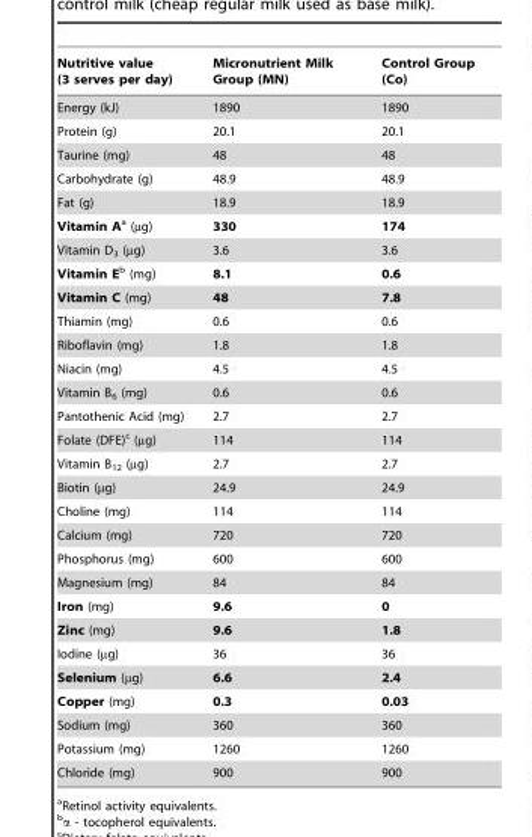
<table><thead><tr><td>Nutritive value (3 serves per day)</td><td>Micronutrient Milk Group (MN)</td><td>Control Group (Co)</td></tr></thead><tbody><tr><td>Energy (kJ)</td><td>1890</td><td>1890</td></tr><tr><td>Protein (g)</td><td>20.1</td><td>20.1</td></tr><tr><td>Taurine (mg)</td><td>48</td><td>48</td></tr><tr><td>Carbohydrate (g)</td><td>48.9</td><td>48.9</td></tr><tr><td>Fat (g)</td><td>18.9</td><td>18.9</td></tr><tr><td>Vitamin Aa (µg)</td><td>330</td><td>174</td></tr><tr><td>Vitamin D<sub>3</sub> (µg)</td><td>3.6</td><td>3.6</td></tr><tr><td>Vitamin Eb (mg)</td><td>8.1</td><td>0.6</td></tr><tr><td>Vitamin C (mg)</td><td>48</td><td>7.8</td></tr><tr><td>Thiamin (mg)</td><td>0.6</td><td>0.6</td></tr><tr><td>Riboflavin (mg)</td><td>1.8</td><td>1.8</td></tr><tr><td>Niacin (mg)</td><td>4.5</td><td>4.5</td></tr><tr><td>Vitamin B<sub>6</sub> (mg)</td><td>0.6</td><td>0.6</td></tr><tr><td>Pantothenic Acid (mg)</td><td>2.7</td><td>2.7</td></tr><tr><td>Folate (DFE)<sup>c</sup> (µg)</td><td>114</td><td>114</td></tr><tr><td>Vitamin B<sub>12</sub> (µg)</td><td>2.7</td><td>2.7</td></tr><tr><td>Biotin (µg)</td><td>24.9</td><td>24.9</td></tr><tr><td>Choline (mg)</td><td>114</td><td>114</td></tr><tr><td>Calcium (mg)</td><td>720</td><td>720</td></tr><tr><td>Phosphorus (mg)</td><td>600</td><td>600</td></tr><tr><td>Magnesium (mg)</td><td>84</td><td>84</td></tr><tr><td>Iron (mg)</td><td>9.6</td><td>0</td></tr><tr><td>Zinc (mg)</td><td>9.6</td><td>1.8</td></tr><tr><td>Iodine (µg)</td><td>36</td><td>36</td></tr><tr><td>Selenium (µg)</td><td>6.6</td><td>2.4</td></tr><tr><td>Copper (mg)</td><td>0.3</td><td>0.03</td></tr><tr><td>Sodium (mg)</td><td>360</td><td>360</td></tr><tr><td>Potassium (mg)</td><td>1260</td><td>1260</td></tr><tr><td>Chloride (mg)</td><td>900</td><td>900</td></tr></tbody></table>